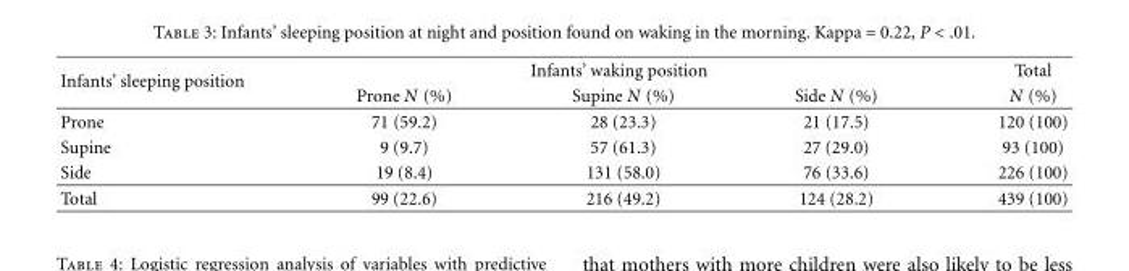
<table><thead><tr><td rowspan="2">Infants’ sleeping position</td><td colspan="3">Infants’ waking position</td><td rowspan="2">Total N (%)</td></tr><tr><td>Prone N (%)</td><td>Supine N (%)</td><td>Side N (%)</td></tr></thead><tbody><tr><td>Prone</td><td>71 (59.2)</td><td>28 (23.3)</td><td>21 (17.5)</td><td>120 (100)</td></tr><tr><td>Supine</td><td>9 (9.7)</td><td>57 (61.3)</td><td>27 (29.0)</td><td>93 (100)</td></tr><tr><td>Side</td><td>19 (8.4)</td><td>131 (58.0)</td><td>76 (33.6)</td><td>226 (100)</td></tr><tr><td>Total</td><td>99 (22.6)</td><td>216 (49.2)</td><td>124 (28.2)</td><td>439 (100)</td></tr></tbody></table>